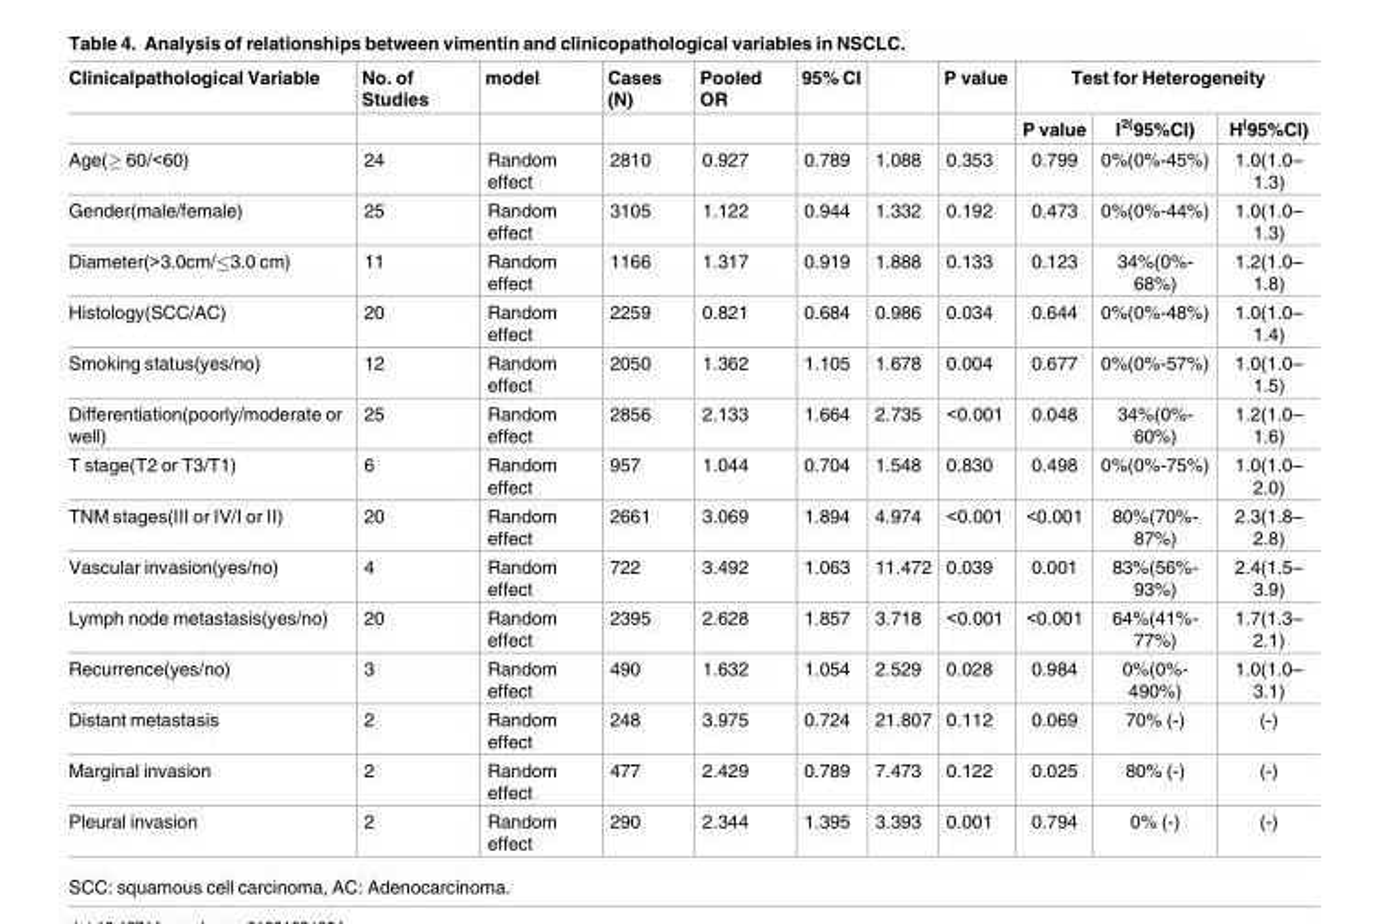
<table><thead><tr><td rowspan="2">Clinicalpathological Variable</td><td rowspan="2">No. of Studies</td><td rowspan="2">model</td><td rowspan="2">Cases (N)</td><td rowspan="2">Pooled OR</td><td rowspan="2">95% CI</td><td rowspan="2"></td><td rowspan="2">P value</td><td colspan="3">Test for Heterogeneity</td></tr><tr><td>P value</td><td>I<sup>2(</sup>95%CI)</td><td>H<sup>(</sup>95%CI)</td></tr></thead><tbody><tr><td>Age(≥ 60/&lt;60)</td><td>24</td><td>Random effect</td><td>2810</td><td>0.927</td><td>0.789</td><td>1.088</td><td>0.353</td><td>0.799</td><td>0%(0%-45%)</td><td>1.0(1.0– 1.3)</td></tr><tr><td>Gender(male/female)</td><td>25</td><td>Random effect</td><td>3105</td><td>1.122</td><td>0.944</td><td>1.332</td><td>0.192</td><td>0.473</td><td>0%(0%-44%)</td><td>1.0(1.0– 1.3)</td></tr><tr><td>Diameter(&gt;3.0cm/≤3.0 cm)</td><td>11</td><td>Random effect</td><td>1166</td><td>1.317</td><td>0.919</td><td>1.888</td><td>0.133</td><td>0.123</td><td>34%(0%- 68%)</td><td>1.2(1.0– 1.8)</td></tr><tr><td>Histology(SCC/AC)</td><td>20</td><td>Random effect</td><td>2259</td><td>0.821</td><td>0.684</td><td>0.986</td><td>0.034</td><td>0.644</td><td>0%(0%-48%)</td><td>1.0(1.0– 1.4)</td></tr><tr><td>Smoking status(yes/no)</td><td>12</td><td>Random effect</td><td>2050</td><td>1.362</td><td>1.105</td><td>1.678</td><td>0.004</td><td>0.677</td><td>0%(0%-57%)</td><td>1.0(1.0– 1.5)</td></tr><tr><td>Differentiation(poorly/moderate or well)</td><td>25</td><td>Random effect</td><td>2856</td><td>2.133</td><td>1.664</td><td>2.735</td><td>&lt;0.001</td><td>0.048</td><td>34%(0%- 60%)</td><td>1.2(1.0– 1.6)</td></tr><tr><td>T stage(T2 or T3/T1)</td><td>6</td><td>Random effect</td><td>957</td><td>1.044</td><td>0.704</td><td>1.548</td><td>0.830</td><td>0.498</td><td>0%(0%-75%)</td><td>1.0(1.0– 2.0)</td></tr><tr><td>TNM stages(III or IV/I or II)</td><td>20</td><td>Random effect</td><td>2661</td><td>3.069</td><td>1.894</td><td>4.974</td><td>&lt;0.001</td><td>&lt;0.001</td><td>80%(70%- 87%)</td><td>2.3(1.8– 2.8)</td></tr><tr><td>Vascular invasion(yes/no)</td><td>4</td><td>Random effect</td><td>722</td><td>3.492</td><td>1.063</td><td>11.472</td><td>0.039</td><td>0.001</td><td>83%(56%- 93%)</td><td>2.4(1.5– 3.9)</td></tr><tr><td>Lymph node metastasis(yes/no)</td><td>20</td><td>Random effect</td><td>2395</td><td>2.628</td><td>1.857</td><td>3.718</td><td>&lt;0.001</td><td>&lt;0.001</td><td>64%(41%- 77%)</td><td>1.7(1.3– 2.1)</td></tr><tr><td>Recurrence(yes/no)</td><td>3</td><td>Random effect</td><td>490</td><td>1.632</td><td>1.054</td><td>2.529</td><td>0.028</td><td>0.984</td><td>0%(0%- 490%)</td><td>1.0(1.0– 3.1)</td></tr><tr><td>Distant metastasis</td><td>2</td><td>Random effect</td><td>248</td><td>3.975</td><td>0.724</td><td>21.807</td><td>0.112</td><td>0.069</td><td>70% (-)</td><td>(-)</td></tr><tr><td>Marginal invasion</td><td>2</td><td>Random effect</td><td>477</td><td>2.429</td><td>0.789</td><td>7.473</td><td>0.122</td><td>0.025</td><td>80% (-)</td><td>(-)</td></tr><tr><td>Pleural invasion</td><td>2</td><td>Random effect</td><td>290</td><td>2.344</td><td>1.395</td><td>3.393</td><td>0.001</td><td>0.794</td><td>0% (-)</td><td>(-)</td></tr></tbody></table>